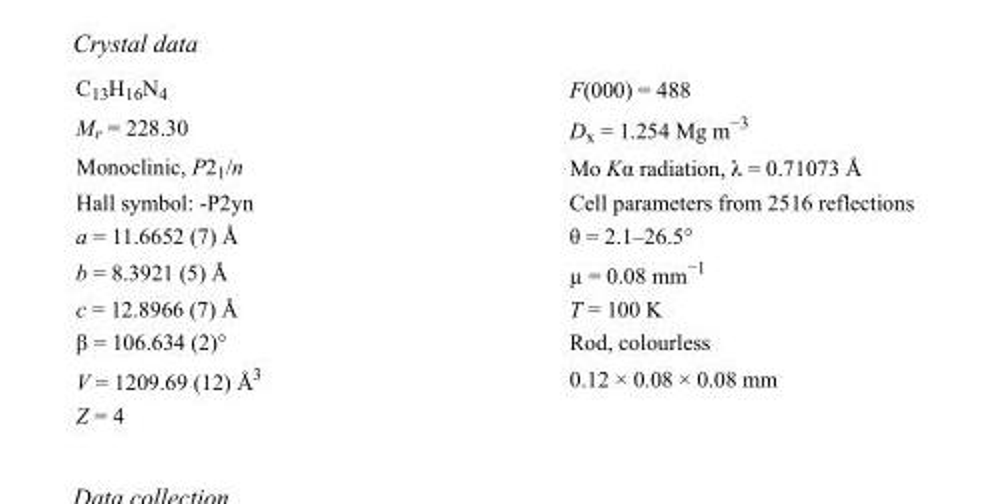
<table><tbody><tr><td>C<sub>13</sub>H<sub>16</sub>N<sub>4</sub></td><td>F(000) = 488</td></tr><tr><td>M<sub>r</sub> = 228.30</td><td>D<sub>x</sub> = 1.254 Mg m<sup>−3</sup></td></tr><tr><td>Monoclinic, P2<sub>1</sub>/n</td><td>Mo Kα radiation, λ = 0.71073 Å</td></tr><tr><td>Hall symbol: -P2yn</td><td>Cell parameters from 2516 reflections</td></tr><tr><td>a = 11.6652 (7) Å</td><td>θ = 2.1–26.5°</td></tr><tr><td>b = 8.3921 (5) Å</td><td>µ = 0.08 mm<sup>−1</sup></td></tr><tr><td>c = 12.8966 (7) Å</td><td>T = 100 K</td></tr><tr><td>β = 106.634 (2)°</td><td>Rod, colourless</td></tr><tr><td>V = 1209.69 (12) Å<sup>3</sup></td><td>0.12 × 0.08 × 0.08 mm</td></tr><tr><td>Z = 4</td><td></td></tr></tbody></table>